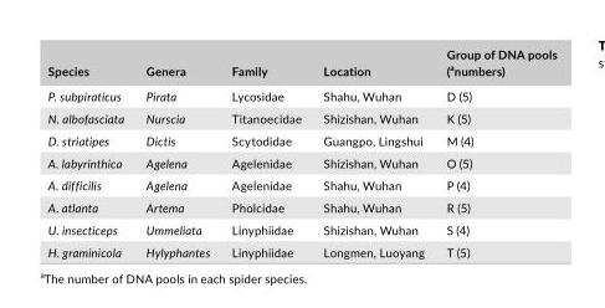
<table><thead><tr><td>Species</td><td>Genera</td><td>Family</td><td>Location</td><td>Group of DNA pools (anumbers)</td></tr></thead><tbody><tr><td>P. subpiraticus</td><td>Pirata</td><td>Lycosidae</td><td>Shahu, Wuhan</td><td>D (5)</td></tr><tr><td>N. albofasciata</td><td>Nurscia</td><td>Titanoecidae</td><td>Shizishan, Wuhan</td><td>K (5)</td></tr><tr><td>D. striatipes</td><td>Dictis</td><td>Scytodidae</td><td>Guangpo, Lingshui</td><td>M (4)</td></tr><tr><td>A. labyrinthica</td><td>Agelena</td><td>Agelenidae</td><td>Shizishan, Wuhan</td><td>O (5)</td></tr><tr><td>A. difficilis</td><td>Agelena</td><td>Agelenidae</td><td>Shahu, Wuhan</td><td>P (4)</td></tr><tr><td>A. atlanta</td><td>Artema</td><td>Pholcidae</td><td>Shahu, Wuhan</td><td>R (5)</td></tr><tr><td>U. insecticeps</td><td>Ummeliata</td><td>Linyphiidae</td><td>Shizishan, Wuhan</td><td>S (4)</td></tr><tr><td>H. graminicola</td><td>Hylyphantes</td><td>Linyphiidae</td><td>Longmen, Luoyang</td><td>T (5)</td></tr></tbody></table>